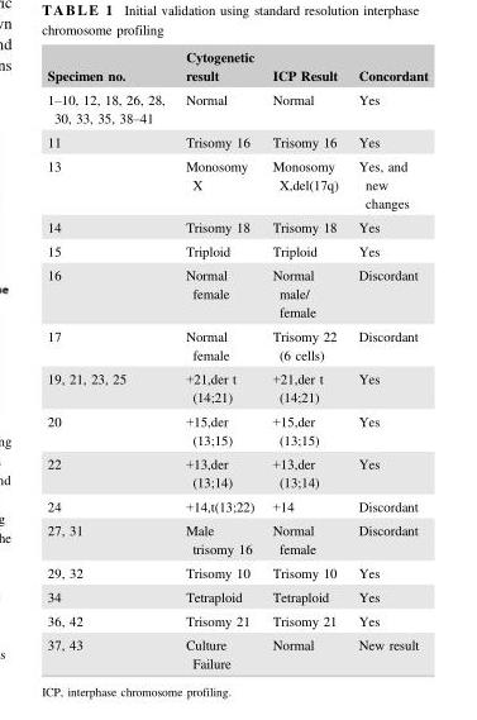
<table><thead><tr><td>Specimen no.</td><td>Cytogenetic result</td><td>ICP Result</td><td>Concordant</td></tr></thead><tbody><tr><td>1–10, 12, 18, 26, 28, 30, 33, 35, 38–41</td><td>Normal</td><td>Normal</td><td>Yes</td></tr><tr><td>11</td><td>Trisomy 16</td><td>Trisomy 16</td><td>Yes</td></tr><tr><td>13</td><td>Monosomy X</td><td>Monosomy X,del(17q)</td><td>Yes, and new changes</td></tr><tr><td>14</td><td>Trisomy 18</td><td>Trisomy 18</td><td>Yes</td></tr><tr><td>15</td><td>Triploid</td><td>Triploid</td><td>Yes</td></tr><tr><td>16</td><td>Normal female</td><td>Normal male/ female</td><td>Discordant</td></tr><tr><td>17</td><td>Normal female</td><td>Trisomy 22 (6 cells)</td><td>Discordant</td></tr><tr><td>19, 21, 23, 25</td><td>+21,der t (14;21)</td><td>+21,der t (14;21)</td><td>Yes</td></tr><tr><td>20</td><td>+15,der (13;15)</td><td>+15,der (13;15)</td><td>Yes</td></tr><tr><td>22</td><td>+13,der (13;14)</td><td>+13,der (13;14)</td><td>Yes</td></tr><tr><td>24</td><td>+14,t(13;22)</td><td>+14</td><td>Discordant</td></tr><tr><td>27, 31</td><td>Male trisomy 16</td><td>Normal female</td><td>Discordant</td></tr><tr><td>29, 32</td><td>Trisomy 10</td><td>Trisomy 10</td><td>Yes</td></tr><tr><td>34</td><td>Tetraploid</td><td>Tetraploid</td><td>Yes</td></tr><tr><td>36, 42</td><td>Trisomy 21</td><td>Trisomy 21</td><td>Yes</td></tr><tr><td>37, 43</td><td>Culture Failure</td><td>Normal</td><td>New result</td></tr></tbody></table>